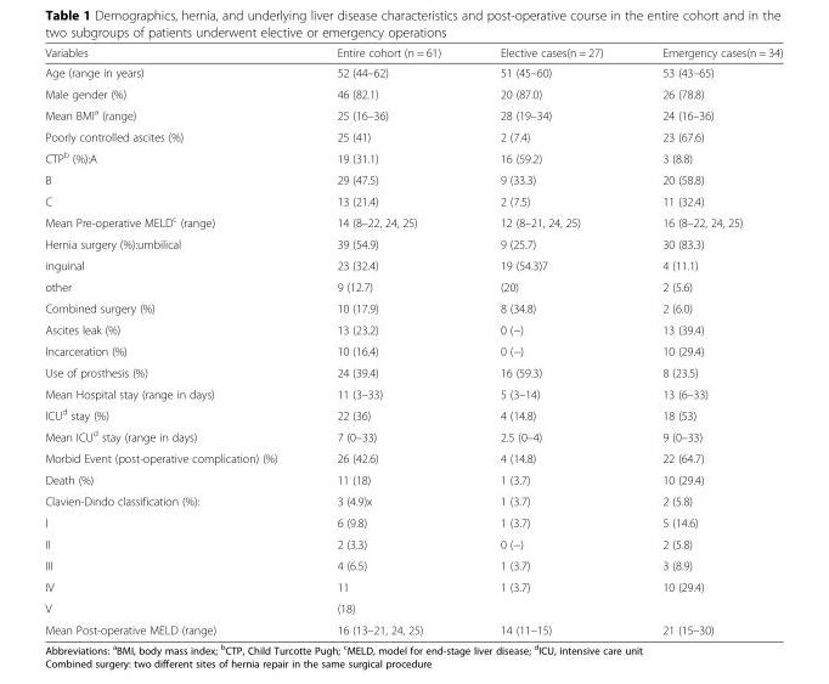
<table><thead><tr><td>Variables</td><td>Entire cohort (n = 61)</td><td>Elective cases(n = 27)</td><td>Emergency cases(n = 34)</td></tr></thead><tbody><tr><td>Age (range in years)</td><td>52 (44–62)</td><td>51 (45–60)</td><td>53 (43–65)</td></tr><tr><td>Male gender (%)</td><td>46 (82.1)</td><td>20 (87.0)</td><td>26 (78.8)</td></tr><tr><td>Mean BMI<sup>a</sup> (range)</td><td>25 (16–36)</td><td>28 (19–34)</td><td>24 (16–36)</td></tr><tr><td>Poorly controlled ascites (%)</td><td>25 (41)</td><td>2 (7.4)</td><td>23 (67.6)</td></tr><tr><td>CTP<sup>b</sup> (%):A</td><td>19 (31.1)</td><td>16 (59.2)</td><td>3 (8.8)</td></tr><tr><td>B</td><td>29 (47.5)</td><td>9 (33.3)</td><td>20 (58.8)</td></tr><tr><td>C</td><td>13 (21.4)</td><td>2 (7.5)</td><td>11 (32.4)</td></tr><tr><td>Mean Pre-operative MELD<sup>c</sup> (range)</td><td>14 (8–22, 24, 25)</td><td>12 (8–21, 24, 25)</td><td>16 (8–22, 24, 25)</td></tr><tr><td>Hernia surgery (%):umbilical</td><td>39 (54.9)</td><td>9 (25.7)</td><td>30 (83.3)</td></tr><tr><td>inguinal</td><td>23 (32.4)</td><td>19 (54.3)7</td><td>4 (11.1)</td></tr><tr><td>other</td><td>9 (12.7)</td><td>(20)</td><td>2 (5.6)</td></tr><tr><td>Combined surgery (%)</td><td>10 (17.9)</td><td>8 (34.8)</td><td>2 (6.0)</td></tr><tr><td>Ascites leak (%)</td><td>13 (23.2)</td><td>0 (−)</td><td>13 (39.4)</td></tr><tr><td>Incarceration (%)</td><td>10 (16.4)</td><td>0 (−)</td><td>10 (29.4)</td></tr><tr><td>Use of prosthesis (%)</td><td>24 (39.4)</td><td>16 (59.3)</td><td>8 (23.5)</td></tr><tr><td>Mean Hospital stay (range in days)</td><td>11 (3–33)</td><td>5 (3–14)</td><td>13 (6–33)</td></tr><tr><td>ICU<sup>d</sup> stay (%)</td><td>22 (36)</td><td>4 (14.8)</td><td>18 (53)</td></tr><tr><td>Mean ICU<sup>d</sup> stay (range in days)</td><td>7 (0–33)</td><td>2.5 (0–4)</td><td>9 (0–33)</td></tr><tr><td>Morbid Event (post-operative complication) (%)</td><td>26 (42.6)</td><td>4 (14.8)</td><td>22 (64.7)</td></tr><tr><td>Death (%)</td><td>11 (18)</td><td>1 (3.7)</td><td>10 (29.4)</td></tr><tr><td>Clavien-Dindo classification (%):</td><td>3 (4.9)x</td><td>1 (3.7)</td><td>2 (5.8)</td></tr><tr><td>I</td><td>6 (9.8)</td><td>1 (3.7)</td><td>5 (14.6)</td></tr><tr><td>II</td><td>2 (3.3)</td><td>0 (−)</td><td>2 (5.8)</td></tr><tr><td>III</td><td>4 (6.5)</td><td>1 (3.7)</td><td>3 (8.9)</td></tr><tr><td>IV</td><td>11</td><td>1 (3.7)</td><td>10 (29.4)</td></tr><tr><td>V</td><td>(18)</td><td></td><td></td></tr><tr><td>Mean Post-operative MELD (range)</td><td>16 (13–21, 24, 25)</td><td>14 (11–15)</td><td>21 (15–30)</td></tr></tbody></table>